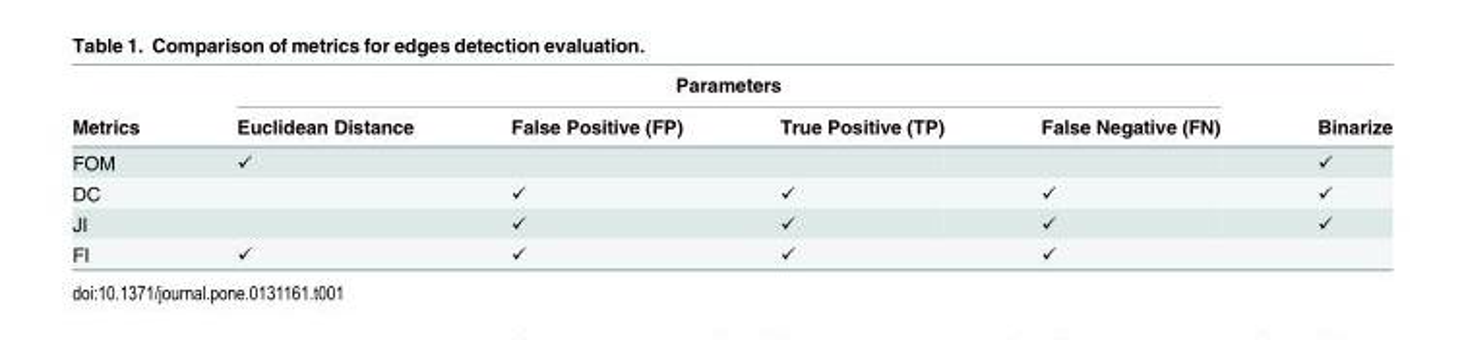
<table><thead><tr><td rowspan="2">Metrics</td><td colspan="4">Parameters</td><td rowspan="2">Binarize</td></tr><tr><td>Euclidean Distance</td><td>False Positive (FP)</td><td>True Positive (TP)</td><td>False Negative (FN)</td></tr></thead><tbody><tr><td>FOM</td><td>✓</td><td></td><td></td><td></td><td>✓</td></tr><tr><td>DC</td><td></td><td>✓</td><td>✓</td><td>✓</td><td>✓</td></tr><tr><td>JI</td><td></td><td>✓</td><td>✓</td><td>✓</td><td>✓</td></tr><tr><td>FI</td><td>✓</td><td>✓</td><td>✓</td><td>✓</td><td></td></tr></tbody></table>